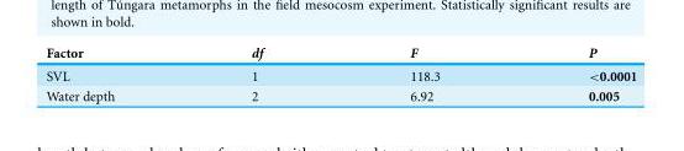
<table><thead><tr><td>Factor</td><td>df</td><td>F</td><td>P</td></tr></thead><tbody><tr><td>SVL</td><td>1</td><td>118.3</td><td>&lt;0.0001</td></tr><tr><td>Water depth</td><td>2</td><td>6.92</td><td>0.005</td></tr></tbody></table>